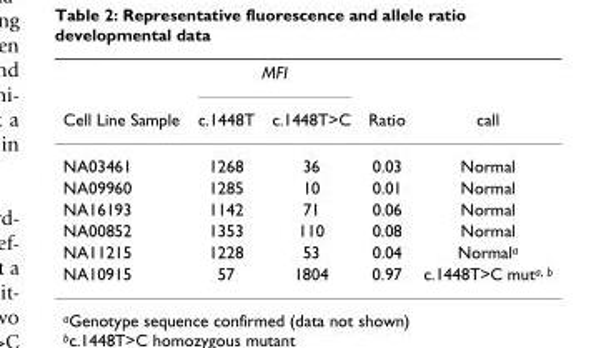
<table><thead><tr><td rowspan="2">Cell Line Sample</td><td colspan="2">MFI</td><td rowspan="2">Ratio</td><td rowspan="2">call</td></tr><tr><td>c.1448T</td><td>c.1448T&gt;C</td></tr></thead><tbody><tr><td>NA03461</td><td>1268</td><td>36</td><td>0.03</td><td>Normal</td></tr><tr><td>NA09960</td><td>1285</td><td>10</td><td>0.01</td><td>Normal</td></tr><tr><td>NA16193</td><td>1142</td><td>71</td><td>0.06</td><td>Normal</td></tr><tr><td>NA00852</td><td>1353</td><td>110</td><td>0.08</td><td>Normal</td></tr><tr><td>NA11215</td><td>1228</td><td>53</td><td>0.04</td><td>Normal<sup>a</sup></td></tr><tr><td>NA10915</td><td>57</td><td>1804</td><td>0.97</td><td>c.1448T&gt;C muta,</td></tr></tbody></table>